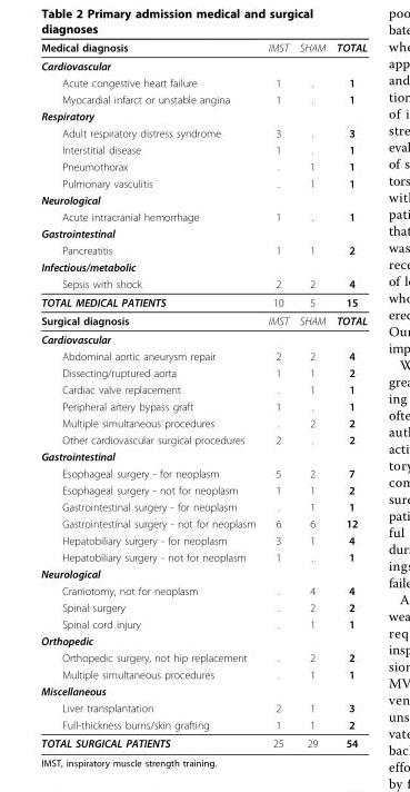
<table><thead><tr><td>Medical diagnosis</td><td>IMST</td><td>SHAM</td><td>TOTAL</td></tr></thead><tbody><tr><td colspan="4">Cardiovascular</td></tr><tr><td>Acute congestive heart failure</td><td>1</td><td>.</td><td>1</td></tr><tr><td>Myocardial infarct or unstable angina</td><td>1</td><td>.</td><td>1</td></tr><tr><td colspan="4">Respiratory</td></tr><tr><td>Adult respiratory distress syndrome</td><td>3</td><td>.</td><td>3</td></tr><tr><td>Interstitial disease</td><td>1</td><td>.</td><td>1</td></tr><tr><td>Pneumothorax</td><td>.</td><td>1</td><td>1</td></tr><tr><td>Pulmonary vasculitis</td><td>.</td><td>1</td><td>1</td></tr><tr><td colspan="4">Neurological</td></tr><tr><td>Acute intracranial hemorrhage</td><td>1</td><td>.</td><td>1</td></tr><tr><td colspan="4">Gastrointestinal</td></tr><tr><td>Pancreatitis</td><td>1</td><td>1</td><td>2</td></tr><tr><td colspan="4">Infectious/metabolic</td></tr><tr><td>Sepsis with shock</td><td>2</td><td>2</td><td>4</td></tr><tr><td>TOTAL MEDICAL PATIENTS</td><td>10</td><td>5</td><td>15</td></tr><tr><td>Surgical diagnosis</td><td>IMST</td><td>SHAM</td><td>TOTAL</td></tr><tr><td colspan="4">Cardiovascular</td></tr><tr><td>Abdominal aortic aneurysm repair</td><td>2</td><td>2</td><td>4</td></tr><tr><td>Dissecting/ruptured aorta</td><td>1</td><td>1</td><td>2</td></tr><tr><td>Cardiac valve replacement</td><td>.</td><td>1</td><td>1</td></tr><tr><td>Peripheral artery bypass graft</td><td>1</td><td>.</td><td>1</td></tr><tr><td>Multiple simultaneous procedures</td><td>.</td><td>2</td><td>2</td></tr><tr><td>Other cardiovascular surgical procedures</td><td>2</td><td>.</td><td>2</td></tr><tr><td colspan="4">Gastrointestinal</td></tr><tr><td>Esophageal surgery - for neoplasm</td><td>5</td><td>2</td><td>7</td></tr><tr><td>Esophageal surgery - not for neoplasm</td><td>1</td><td>1</td><td>2</td></tr><tr><td>Gastrointestinal surgery - for neoplasm</td><td>.</td><td>1</td><td>1</td></tr><tr><td>Gastrointestinal surgery - not for neoplasm</td><td>6</td><td>6</td><td>12</td></tr><tr><td>Hepatobiliary surgery - for neoplasm</td><td>3</td><td>1</td><td>4</td></tr><tr><td>Hepatobiliary surgery - not for neoplasm</td><td>1</td><td>.</td><td>1</td></tr><tr><td colspan="4">Neurological</td></tr><tr><td>Craniotomy, not for neoplasm</td><td>.</td><td>4</td><td>4</td></tr><tr><td>Spinal surgery</td><td>.</td><td>2</td><td>2</td></tr><tr><td>Spinal cord injury</td><td>.</td><td>1</td><td>1</td></tr><tr><td colspan="4">Orthopedic</td></tr><tr><td>Orthopedic surgery, not hip replacement</td><td>.</td><td>2</td><td>2</td></tr><tr><td>Multiple simultaneous procedures</td><td>.</td><td>1</td><td>1</td></tr><tr><td colspan="4">Miscellaneous</td></tr><tr><td>Liver transplantation</td><td>2</td><td>1</td><td>3</td></tr><tr><td>Full-thickness burns/skin grafting</td><td>1</td><td>1</td><td>2</td></tr><tr><td>TOTAL SURGICAL PATIENTS</td><td>25</td><td>29</td><td>54</td></tr></tbody></table>